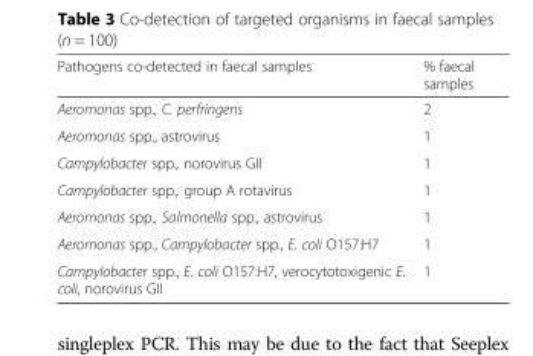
<table><thead><tr><td>Pathogens co-detected in faecal samples</td><td>% faecal samples</td></tr></thead><tbody><tr><td>Aeromonas spp., C. perfringens</td><td>2</td></tr><tr><td>Aeromonas spp., astrovirus</td><td>1</td></tr><tr><td>Campylobacter spp., norovirus GII</td><td>1</td></tr><tr><td>Campylobacter spp., group A rotavirus</td><td>1</td></tr><tr><td>Aeromonas spp., Salmonella spp., astrovirus</td><td>1</td></tr><tr><td>Aeromonas spp., Campylobacter spp., E. coli O157:H7</td><td>1</td></tr><tr><td>Campylobacter spp., E. coli O157:H7, verocytotoxigenic E. coli, norovirus GII</td><td>1</td></tr></tbody></table>